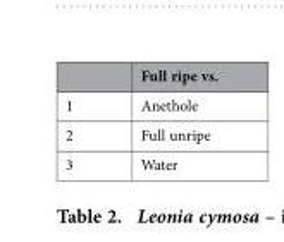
<table><thead><tr><td></td><td>Full ripe vs.</td></tr></thead><tbody><tr><td>1</td><td>Anethole</td></tr><tr><td>2</td><td>Full unripe</td></tr><tr><td>3</td><td>Water</td></tr></tbody></table>